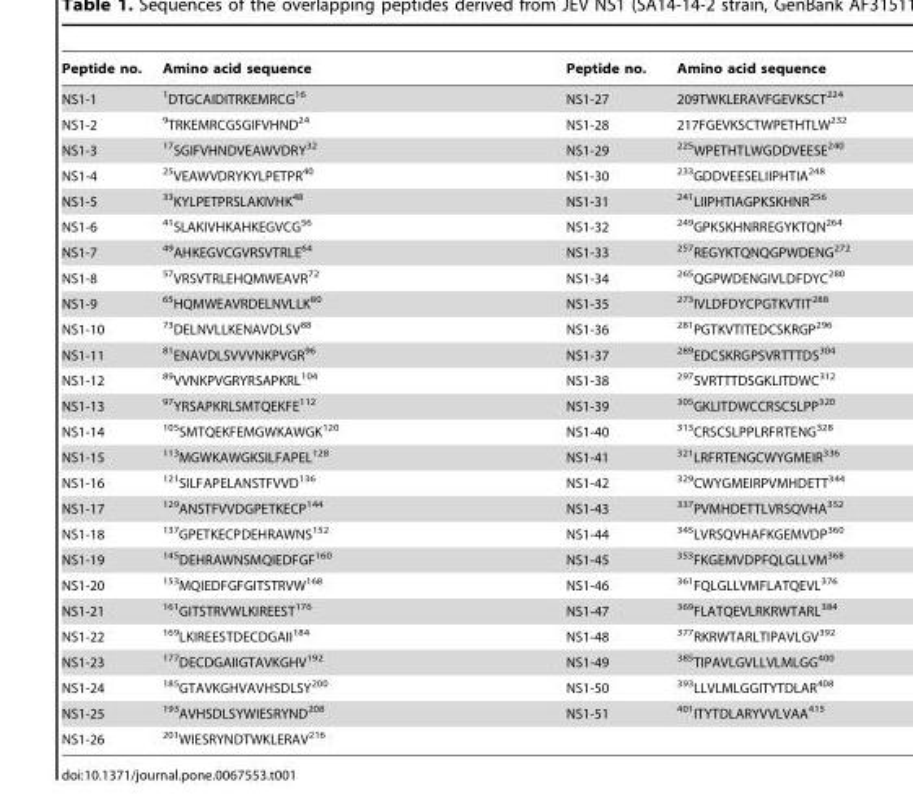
<table><thead><tr><td>Peptide no.</td><td>Amino acid sequence</td><td>Peptide no.</td><td>Amino acid sequence</td></tr></thead><tbody><tr><td>NS1-1</td><td><sup>1</sup>DTGCAIDITRKEMRCG<sup>16</sup></td><td>NS1-27</td><td>209TWKLERAVFGEVKSCT<sup>224</sup></td></tr><tr><td>NS1-2</td><td><sup>9</sup>TRKEMRCGSGIFVHND<sup>24</sup></td><td>NS1-28</td><td>217FGEVKSCTWPETHTLW<sup>232</sup></td></tr><tr><td>NS1-3</td><td><sup>17</sup>SGIFVHNDVEAWVDRY<sup>32</sup></td><td>NS1-29</td><td><sup>225</sup>WPETHTLWGDDVEESE<sup>240</sup></td></tr><tr><td>NS1-4</td><td><sup>25</sup>VEAWVDRYKYLPETPR<sup>40</sup></td><td>NS1-30</td><td><sup>233</sup>GDDVEESELIIPHTIA<sup>248</sup></td></tr><tr><td>NS1-5</td><td><sup>33</sup>KYLPETPRSLAKIVHK<sup>48</sup></td><td>NS1-31</td><td><sup>241</sup>LIIPHTIAGPKSKHNR<sup>256</sup></td></tr><tr><td>NS1-6</td><td><sup>41</sup>SLAKIVHKAHKEGVCG<sup>56</sup></td><td>NS1-32</td><td><sup>249</sup>GPKSKHNRREGYKTQN<sup>264</sup></td></tr><tr><td>NS1-7</td><td><sup>49</sup>AHKEGVCGVRSVTRLE<sup>64</sup></td><td>NS1-33</td><td><sup>257</sup>REGYKTQNQGPWDENG<sup>272</sup></td></tr><tr><td>NS1-8</td><td><sup>57</sup>VRSVTRLEHQMWEAVR<sup>72</sup></td><td>NS1-34</td><td><sup>265</sup>QGPWDENGIVLDFDYC<sup>280</sup></td></tr><tr><td>NS1-9</td><td><sup>65</sup>HQMWEAVRDELNVLLK<sup>80</sup></td><td>NS1-35</td><td><sup>273</sup>IVLDFDYCPGTKVTIT<sup>288</sup></td></tr><tr><td>NS1-10</td><td><sup>73</sup>DELNVLLKENAVDLSV<sup>88</sup></td><td>NS1-36</td><td><sup>281</sup>PGTKVTITEDCSKRGP<sup>296</sup></td></tr><tr><td>NS1-11</td><td><sup>81</sup>ENAVDLSVVVNKPVGR<sup>96</sup></td><td>NS1-37</td><td><sup>289</sup>EDCSKRGPSVRTTTDS<sup>304</sup></td></tr><tr><td>NS1-12</td><td><sup>89</sup>VVNKPVGRYRSAPKRL<sup>104</sup></td><td>NS1-38</td><td><sup>297</sup>SVRTTTDSGKLITDWC<sup>312</sup></td></tr><tr><td>NS1-13</td><td><sup>97</sup>YRSAPKRLSMTQEKFE<sup>112</sup></td><td>NS1-39</td><td><sup>305</sup>GKLITDWCCRSCSLPP<sup>320</sup></td></tr><tr><td>NS1-14</td><td><sup>105</sup>SMTQEKFEMGWKAWGK<sup>120</sup></td><td>NS1-40</td><td><sup>313</sup>CRSCSLPPLRFRTENG<sup>328</sup></td></tr><tr><td>NS1-15</td><td><sup>113</sup>MGWKAWGKSILFAPEL<sup>128</sup></td><td>NS1-41</td><td><sup>321</sup>LRFRTENGCWYGMEIR<sup>336</sup></td></tr><tr><td>NS1-16</td><td><sup>121</sup>SILFAPELANSTFVVD<sup>136</sup></td><td>NS1-42</td><td><sup>329</sup>CWYGMEIRPVMHDETT<sup>344</sup></td></tr><tr><td>NS1-17</td><td><sup>129</sup>ANSTFVVDGPETKECP<sup>144</sup></td><td>NS1-43</td><td><sup>337</sup>PVMHDETTLVRSQVHA<sup>352</sup></td></tr><tr><td>NS1-18</td><td><sup>137</sup>GPETKECPDEHRAWNS<sup>152</sup></td><td>NS1-44</td><td><sup>345</sup>LVRSQVHAFKGEMVDP<sup>360</sup></td></tr><tr><td>NS1-19</td><td><sup>145</sup>DEHRAWNSMQIEDFGF<sup>160</sup></td><td>NS1-45</td><td><sup>353</sup>FKGEMVDPFQLGLLVM<sup>368</sup></td></tr><tr><td>NS1-20</td><td><sup>153</sup>MQIEDFGFGITSTRVW<sup>168</sup></td><td>NS1-46</td><td><sup>361</sup>FQLGLLVMFLATQEVL<sup>376</sup></td></tr><tr><td>NS1-21</td><td><sup>161</sup>GITSTRVWLKIREEST<sup>176</sup></td><td>NS1-47</td><td><sup>369</sup>FLATQEVLRKRWTARL<sup>384</sup></td></tr><tr><td>NS1-22</td><td><sup>169</sup>LKIREESTDECDGAII<sup>184</sup></td><td>NS1-48</td><td><sup>377</sup>RKRWTARLTIPAVLGV<sup>392</sup></td></tr><tr><td>NS1-23</td><td><sup>177</sup>DECDGAIIGTAVKGHV<sup>192</sup></td><td>NS1-49</td><td><sup>385</sup>TIPAVLGVLLVLMLGG<sup>400</sup></td></tr><tr><td>NS1-24</td><td><sup>185</sup>GTAVKGHVAVHSDLSY<sup>200</sup></td><td>NS1-50</td><td><sup>393</sup>LLVLMLGGITYTDLAR<sup>408</sup></td></tr><tr><td>NS1-25</td><td><sup>193</sup>AVHSDLSYWIESRYND<sup>208</sup></td><td>NS1-51</td><td><sup>401</sup>ITYTDLARYVVLVAA<sup>415</sup></td></tr><tr><td>NS1-26</td><td><sup>201</sup>WIESRYNDTWKLERAV<sup>216</sup></td><td></td><td></td></tr></tbody></table>